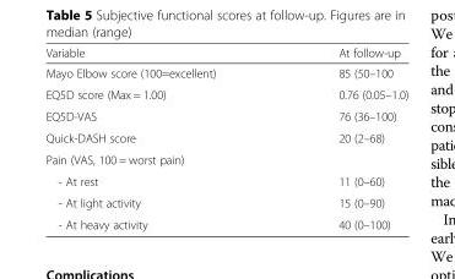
<table><thead><tr><td>Variable</td><td>At follow-up</td></tr></thead><tbody><tr><td>Mayo Elbow score (100=excellent)</td><td>85 (50–100</td></tr><tr><td>EQ5D score (Max = 1.00)</td><td>0.76 (0.05–1.0)</td></tr><tr><td>EQ5D-VAS</td><td>76 (36–100)</td></tr><tr><td>Quick-DASH score</td><td>20 (2–68)</td></tr><tr><td colspan="2">Pain (VAS, 100 = worst pain)</td></tr><tr><td>- At rest</td><td>11 (0–60)</td></tr><tr><td>- At light activity</td><td>15 (0–90)</td></tr><tr><td>- At heavy activity</td><td>40 (0–100)</td></tr></tbody></table>